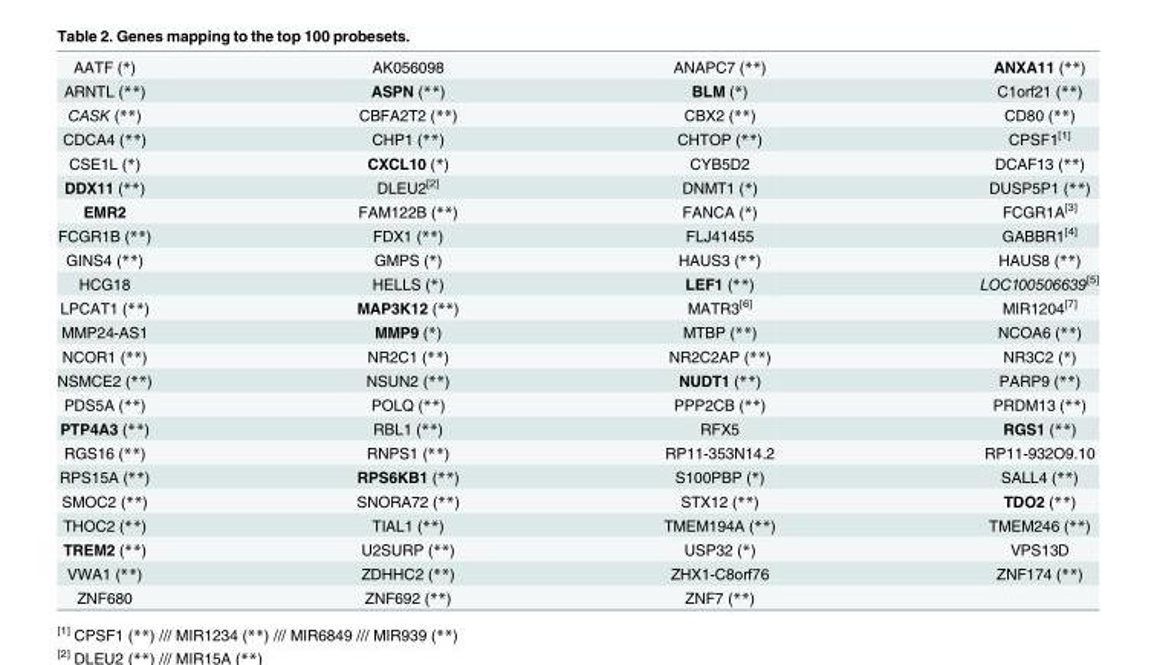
<table><tbody><tr><td>AATF (*)</td><td>AK056098</td><td>ANAPC7 (**)</td><td>ANXA11 (**)</td></tr><tr><td>ARNTL (**)</td><td>ASPN (**)</td><td>BLM (*)</td><td>C1orf21 (**)</td></tr><tr><td>CASK (**)</td><td>CBFA2T2 (**)</td><td>CBX2 (**)</td><td>CD80 (**)</td></tr><tr><td>CDCA4 (**)</td><td>CHP1 (**)</td><td>CHTOP (**)</td><td>CPSF1<sup>[1]</sup></td></tr><tr><td>CSE1L (*)</td><td>CXCL10 (*)</td><td>CYB5D2</td><td>DCAF13 (**)</td></tr><tr><td>DDX11 (**)</td><td>DLEU2<sup>[2]</sup></td><td>DNMT1 (*)</td><td>DUSP5P1 (**)</td></tr><tr><td>EMR2</td><td>FAM122B (**)</td><td>FANCA (*)</td><td>FCGR1A<sup>[3]</sup></td></tr><tr><td>FCGR1B (**)</td><td>FDX1 (**)</td><td>FLJ41455</td><td>GABBR1<sup>[4]</sup></td></tr><tr><td>GINS4 (**)</td><td>GMPS (*)</td><td>HAUS3 (**)</td><td>HAUS8 (**)</td></tr><tr><td>HCG18</td><td>HELLS (*)</td><td>LEF1 (**)</td><td>LOC100506639<sup>[5]</sup></td></tr><tr><td>LPCAT1 (**)</td><td>MAP3K12 (**)</td><td>MATR3<sup>[6]</sup></td><td>MIR1204<sup>[7]</sup></td></tr><tr><td>MMP24-AS1</td><td>MMP9 (*)</td><td>MTBP (**)</td><td>NCOA6 (**)</td></tr><tr><td>NCOR1 (**)</td><td>NR2C1 (**)</td><td>NR2C2AP (**)</td><td>NR3C2 (*)</td></tr><tr><td>NSMCE2 (**)</td><td>NSUN2 (**)</td><td>NUDT1 (**)</td><td>PARP9 (**)</td></tr><tr><td>PDS5A (**)</td><td>POLQ (**)</td><td>PPP2CB (**)</td><td>PRDM13 (**)</td></tr><tr><td>PTP4A3 (**)</td><td>RBL1 (**)</td><td>RFX5</td><td>RGS1 (**)</td></tr><tr><td>RGS16 (**)</td><td>RNPS1 (**)</td><td>RP11-353N14.2</td><td>RP11-932O9.10</td></tr><tr><td>RPS15A (**)</td><td>RPS6KB1 (**)</td><td>S100PBP (*)</td><td>SALL4 (**)</td></tr><tr><td>SMOC2 (**)</td><td>SNORA72 (**)</td><td>STX12 (**)</td><td>TDO2 (**)</td></tr><tr><td>THOC2 (**)</td><td>TIAL1 (**)</td><td>TMEM194A (**)</td><td>TMEM246 (**)</td></tr><tr><td>TREM2 (**)</td><td>U2SURP (**)</td><td>USP32 (*)</td><td>VPS13D</td></tr><tr><td>VWA1 (**)</td><td>ZDHHC2 (**)</td><td>ZHX1-C8orf76</td><td>ZNF174 (**)</td></tr><tr><td>ZNF680</td><td>ZNF692 (**)</td><td>ZNF7 (**)</td><td></td></tr></tbody></table>